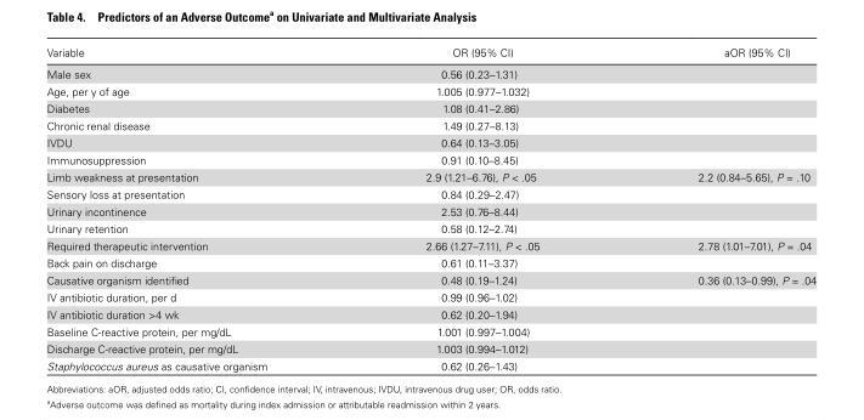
<table><thead><tr><td>Variable</td><td>OR (95% CI)</td><td>aOR (95% CI)</td></tr></thead><tbody><tr><td>Male sex</td><td>0.56 (0.23–1.31)</td><td></td></tr><tr><td>Age, per y of age</td><td>1.005 (0.977–1.032)</td><td></td></tr><tr><td>Diabetes</td><td>1.08 (0.41–2.86)</td><td></td></tr><tr><td>Chronic renal disease</td><td>1.49 (0.27–8.13)</td><td></td></tr><tr><td>IVDU</td><td>0.64 (0.13–3.05)</td><td></td></tr><tr><td>Immunosuppression</td><td>0.91 (0.10–8.45)</td><td></td></tr><tr><td>Limb weakness at presentation</td><td>2.9 (1.21–6.76), P &lt; .05</td><td>2.2 (0.84–5.65), P = .10</td></tr><tr><td>Sensory loss at presentation</td><td>0.84 (0.29–2.47)</td><td></td></tr><tr><td>Urinary incontinence</td><td>2.53 (0.76–8.44)</td><td></td></tr><tr><td>Urinary retention</td><td>0.58 (0.12–2.74)</td><td></td></tr><tr><td>Required therapeutic intervention</td><td>2.66 (1.27–7.11), P &lt; .05</td><td>2.78 (1.01–7.01), P = .04</td></tr><tr><td>Back pain on discharge</td><td>0.61 (0.11–3.37)</td><td></td></tr><tr><td>Causative organism identified</td><td>0.48 (0.19–1.24)</td><td>0.36 (0.13–0.99), P = .04</td></tr><tr><td>IV antibiotic duration, per d</td><td>0.99 (0.96–1.02)</td><td></td></tr><tr><td>IV antibiotic duration &gt;4 wk</td><td>0.62 (0.20–1.94)</td><td></td></tr><tr><td>Baseline C-reactive protein, per mg/dL</td><td>1.001 (0.997–1.004)</td><td></td></tr><tr><td>Discharge C-reactive protein, per mg/dL</td><td>1.003 (0.994–1.012)</td><td></td></tr><tr><td>Staphylococcus aureus as causative organism</td><td>0.62 (0.26–1.43)</td><td></td></tr></tbody></table>